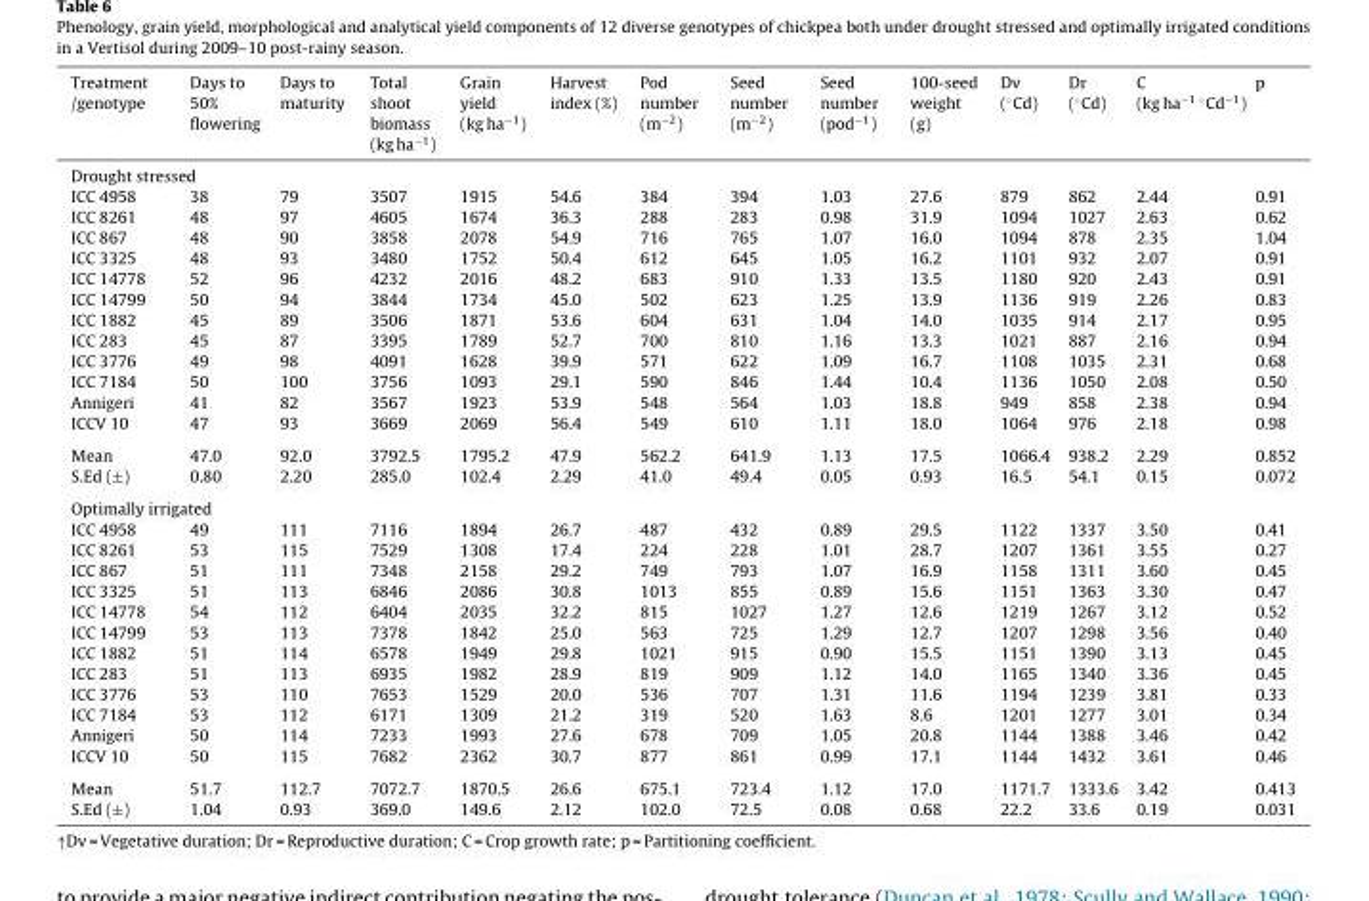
<table><thead><tr><td>Treatment /genotype</td><td>Days to 50% flowering</td><td>Days to maturity</td><td>Total shoot biomass (kg ha<sup>−1</sup>)</td><td>Grain yield (kg ha<sup>−1</sup>)</td><td>Harvest index (%)</td><td>Pod number (m<sup>−2</sup>)</td><td>Seed number (m<sup>−2</sup>)</td><td>Seed number (pod<sup>−1</sup>)</td><td>100-seed weight (g)</td><td>Dv (◦Cd)</td><td>Dr (◦Cd)</td><td>C (kg ha−1 ◦Cd−1)</td><td>p</td></tr></thead><tbody><tr><td colspan="14">Drought stressed</td></tr><tr><td>ICC 4958</td><td>38</td><td>79</td><td>3507</td><td>1915</td><td>54.6</td><td>384</td><td>394</td><td>1.03</td><td>27.6</td><td>879</td><td>862</td><td>2.44</td><td>0.91</td></tr><tr><td>ICC 8261</td><td>48</td><td>97</td><td>4605</td><td>1674</td><td>36.3</td><td>288</td><td>283</td><td>0.98</td><td>31.9</td><td>1094</td><td>1027</td><td>2.63</td><td>0.62</td></tr><tr><td>ICC 867</td><td>48</td><td>90</td><td>3858</td><td>2078</td><td>54.9</td><td>716</td><td>765</td><td>1.07</td><td>16.0</td><td>1094</td><td>878</td><td>2.35</td><td>1.04</td></tr><tr><td>ICC 3325</td><td>48</td><td>93</td><td>3480</td><td>1752</td><td>50.4</td><td>612</td><td>645</td><td>1.05</td><td>16.2</td><td>1101</td><td>932</td><td>2.07</td><td>0.91</td></tr><tr><td>ICC 14778</td><td>52</td><td>96</td><td>4232</td><td>2016</td><td>48.2</td><td>683</td><td>910</td><td>1.33</td><td>13.5</td><td>1180</td><td>920</td><td>2.43</td><td>0.91</td></tr><tr><td>ICC 14799</td><td>50</td><td>94</td><td>3844</td><td>1734</td><td>45.0</td><td>502</td><td>623</td><td>1.25</td><td>13.9</td><td>1136</td><td>919</td><td>2.26</td><td>0.83</td></tr><tr><td>ICC 1882</td><td>45</td><td>89</td><td>3506</td><td>1871</td><td>53.6</td><td>604</td><td>631</td><td>1.04</td><td>14.0</td><td>1035</td><td>914</td><td>2.17</td><td>0.95</td></tr><tr><td>ICC 283</td><td>45</td><td>87</td><td>3395</td><td>1789</td><td>52.7</td><td>700</td><td>810</td><td>1.16</td><td>13.3</td><td>1021</td><td>887</td><td>2.16</td><td>0.94</td></tr><tr><td>ICC 3776</td><td>49</td><td>98</td><td>4091</td><td>1628</td><td>39.9</td><td>571</td><td>622</td><td>1.09</td><td>16.7</td><td>1108</td><td>1035</td><td>2.31</td><td>0.68</td></tr><tr><td>ICC 7184</td><td>50</td><td>100</td><td>3756</td><td>1093</td><td>29.1</td><td>590</td><td>846</td><td>1.44</td><td>10.4</td><td>1136</td><td>1050</td><td>2.08</td><td>0.50</td></tr><tr><td>Annigeri</td><td>41</td><td>82</td><td>3567</td><td>1923</td><td>53.9</td><td>548</td><td>564</td><td>1.03</td><td>18.8</td><td>949</td><td>858</td><td>2.38</td><td>0.94</td></tr><tr><td>ICCV 10</td><td>47</td><td>93</td><td>3669</td><td>2069</td><td>56.4</td><td>549</td><td>610</td><td>1.11</td><td>18.0</td><td>1064</td><td>976</td><td>2.18</td><td>0.98</td></tr><tr><td>Mean</td><td>47.0</td><td>92.0</td><td>3792.5</td><td>1795.2</td><td>47.9</td><td>562.2</td><td>641.9</td><td>1.13</td><td>17.5</td><td>1066.4</td><td>938.2</td><td>2.29</td><td>0.852</td></tr><tr><td>S.Ed (±)</td><td>0.80</td><td>2.20</td><td>285.0</td><td>102.4</td><td>2.29</td><td>41.0</td><td>49.4</td><td>0.05</td><td>0.93</td><td>16.5</td><td>54.1</td><td>0.15</td><td>0.072</td></tr><tr><td colspan="14">Optimally irrigated</td></tr><tr><td>ICC 4958</td><td>49</td><td>111</td><td>7116</td><td>1894</td><td>26.7</td><td>487</td><td>432</td><td>0.89</td><td>29.5</td><td>1122</td><td>1337</td><td>3.50</td><td>0.41</td></tr><tr><td>ICC 8261</td><td>53</td><td>115</td><td>7529</td><td>1308</td><td>17.4</td><td>224</td><td>228</td><td>1.01</td><td>28.7</td><td>1207</td><td>1361</td><td>3.55</td><td>0.27</td></tr><tr><td>ICC 867</td><td>51</td><td>111</td><td>7348</td><td>2158</td><td>29.2</td><td>749</td><td>793</td><td>1.07</td><td>16.9</td><td>1158</td><td>1311</td><td>3.60</td><td>0.45</td></tr><tr><td>ICC 3325</td><td>51</td><td>113</td><td>6846</td><td>2086</td><td>30.8</td><td>1013</td><td>855</td><td>0.89</td><td>15.6</td><td>1151</td><td>1363</td><td>3.30</td><td>0.47</td></tr><tr><td>ICC 14778</td><td>54</td><td>112</td><td>6404</td><td>2035</td><td>32.2</td><td>815</td><td>1027</td><td>1.27</td><td>12.6</td><td>1219</td><td>1267</td><td>3.12</td><td>0.52</td></tr><tr><td>ICC 14799</td><td>53</td><td>113</td><td>7378</td><td>1842</td><td>25.0</td><td>563</td><td>725</td><td>1.29</td><td>12.7</td><td>1207</td><td>1298</td><td>3.56</td><td>0.40</td></tr><tr><td>ICC 1882</td><td>51</td><td>114</td><td>6578</td><td>1949</td><td>29.8</td><td>1021</td><td>915</td><td>0.90</td><td>15.5</td><td>1151</td><td>1390</td><td>3.13</td><td>0.45</td></tr><tr><td>ICC 283</td><td>51</td><td>113</td><td>6935</td><td>1982</td><td>28.9</td><td>819</td><td>909</td><td>1.12</td><td>14.0</td><td>1165</td><td>1340</td><td>3.36</td><td>0.45</td></tr><tr><td>ICC 3776</td><td>53</td><td>110</td><td>7653</td><td>1529</td><td>20.0</td><td>536</td><td>707</td><td>1.31</td><td>11.6</td><td>1194</td><td>1239</td><td>3.81</td><td>0.33</td></tr><tr><td>ICC 7184</td><td>53</td><td>112</td><td>6171</td><td>1309</td><td>21.2</td><td>319</td><td>520</td><td>1.63</td><td>8.6</td><td>1201</td><td>1277</td><td>3.01</td><td>0.34</td></tr><tr><td>Annigeri</td><td>50</td><td>114</td><td>7233</td><td>1993</td><td>27.6</td><td>678</td><td>709</td><td>1.05</td><td>20.8</td><td>1144</td><td>1388</td><td>3.46</td><td>0.42</td></tr><tr><td>ICCV 10</td><td>50</td><td>115</td><td>7682</td><td>2362</td><td>30.7</td><td>877</td><td>861</td><td>0.99</td><td>17.1</td><td>1144</td><td>1432</td><td>3.61</td><td>0.46</td></tr><tr><td>Mean</td><td>51.7</td><td>112.7</td><td>7072.7</td><td>1870.5</td><td>26.6</td><td>675.1</td><td>723.4</td><td>1.12</td><td>17.0</td><td>1171.7</td><td>1333.6</td><td>3.42</td><td>0.413</td></tr><tr><td>S.Ed (±)</td><td>1.04</td><td>0.93</td><td>369.0</td><td>149.6</td><td>2.12</td><td>102.0</td><td>72.5</td><td>0.08</td><td>0.68</td><td>22.2</td><td>33.6</td><td>0.19</td><td>0.031</td></tr></tbody></table>